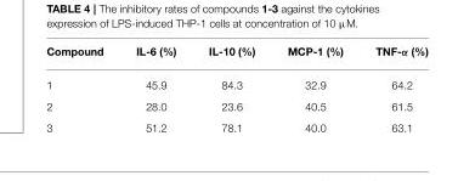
<table><thead><tr><td>Compound</td><td>IL-6 (%)</td><td>IL-10 (%)</td><td>MCP-1 (%)</td><td>TNF-α (%)</td></tr></thead><tbody><tr><td>1</td><td>45.9</td><td>84.3</td><td>32.9</td><td>64.2</td></tr><tr><td>2</td><td>28.0</td><td>23.6</td><td>40.5</td><td>61.5</td></tr><tr><td>3</td><td>51.2</td><td>78.1</td><td>40.0</td><td>63.1</td></tr></tbody></table>